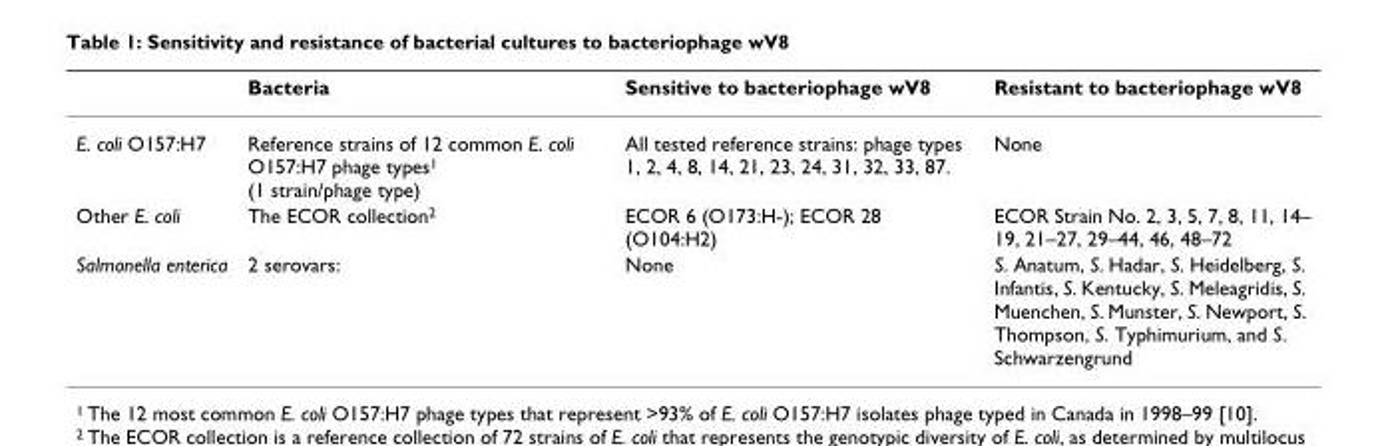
<table><thead><tr><td></td><td>Bacteria</td><td>Sensitive to bacteriophage wV8</td><td>Resistant to bacteriophage wV8</td></tr></thead><tbody><tr><td>E. coli O157:H7</td><td>Reference strains of 12 common E. coli O157:H7 phage types<sup>1</sup> (1 strain/phage type)</td><td>All tested reference strains: phage types 1, 2, 4, 8, 14, 21, 23, 24, 31, 32, 33, 87.</td><td>None</td></tr><tr><td>Other E. coli</td><td>The ECOR collection<sup>2</sup></td><td>ECOR 6 (O173:H-); ECOR 28 (O104:H2)</td><td>ECOR Strain No. 2, 3, 5, 7, 8, 11, 14– 19, 21–27, 29–44, 46, 48–72</td></tr><tr><td>Salmonella enterica</td><td>2 serovars:</td><td>None</td><td>S. Anatum, S. Hadar, S. Heidelberg, S. Infantis, S. Kentucky, S. Meleagridis, S. Muenchen, S. Munster, S. Newport, S. Thompson, S. Typhimurium, and S. Schwarzengrund</td></tr></tbody></table>